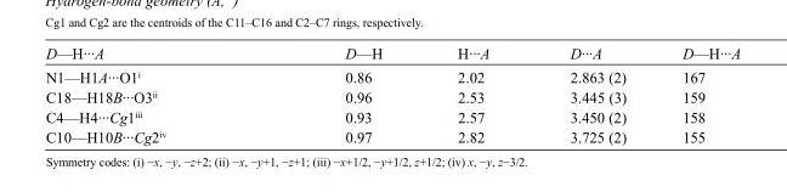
<table><tbody><tr><td>D—H···A</td><td>D—H</td><td>H···A</td><td>D···A</td><td>D—H···A</td></tr><tr><td>N1—H1A···O1<sup>i</sup></td><td>0.86</td><td>2.02</td><td>2.863 (2)</td><td>167</td></tr><tr><td>C18—H18B···O3<sup>ii</sup></td><td>0.96</td><td>2.53</td><td>3.445 (3)</td><td>159</td></tr><tr><td>C4—H4···Cg1<sup>iii</sup></td><td>0.93</td><td>2.57</td><td>3.450 (2)</td><td>158</td></tr><tr><td>C10—H10B···Cg2<sup>iv</sup></td><td>0.97</td><td>2.82</td><td>3.725 (2)</td><td>155</td></tr></tbody></table>